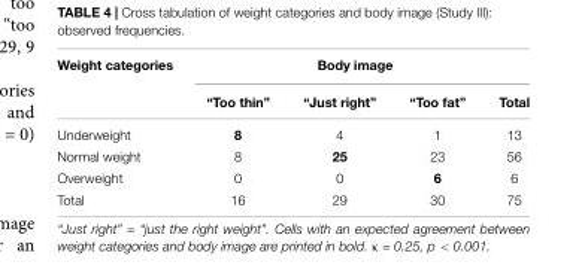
<table><thead><tr><td rowspan="2">Weight categories</td><td colspan="4">Body image</td></tr><tr><td>“Too thin”</td><td>“Just right”</td><td>“Too fat”</td><td>Total</td></tr></thead><tbody><tr><td>Underweight</td><td>8</td><td>4</td><td>1</td><td>13</td></tr><tr><td>Normal weight</td><td>8</td><td>25</td><td>23</td><td>56</td></tr><tr><td>Overweight</td><td>0</td><td>0</td><td>6</td><td>6</td></tr><tr><td>Total</td><td>16</td><td>29</td><td>30</td><td>75</td></tr></tbody></table>